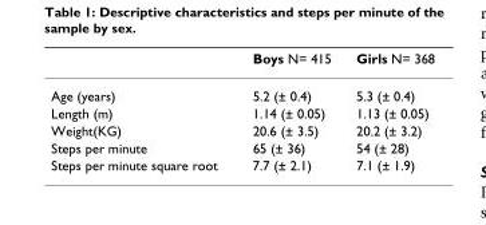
<table><thead><tr><td></td><td>Boys N= 415</td><td>Girls N= 368</td></tr></thead><tbody><tr><td>Age (years)</td><td>5.2 (± 0.4)</td><td>5.3 (± 0.4)</td></tr><tr><td>Length (m)</td><td>1.14 (± 0.05)</td><td>1.13 (± 0.05)</td></tr><tr><td>Weight(KG)</td><td>20.6 (± 3.5)</td><td>20.2 (± 3.2)</td></tr><tr><td>Steps per minute</td><td>65 (± 36)</td><td>54 (± 28)</td></tr><tr><td>Steps per minute square root</td><td>7.7 (± 2.1)</td><td>7.1 (± 1.9)</td></tr></tbody></table>